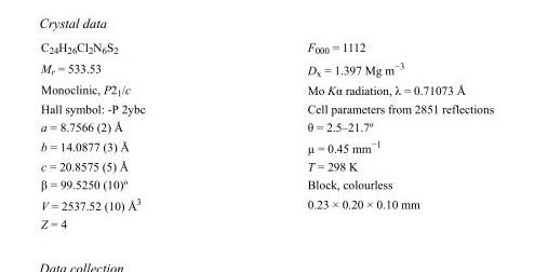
<table><tbody><tr><td>C<sub>24</sub>H<sub>26</sub>Cl<sub>2</sub>N<sub>6</sub>S<sub>2</sub></td><td>F000 = 1112</td></tr><tr><td>M<sub>r</sub> = 533.53</td><td>D<sub>x</sub> = 1.397 Mg m<sup>−3</sup></td></tr><tr><td>Monoclinic, P2<sub>1</sub>/c</td><td>Mo Kα radiation, λ = 0.71073 Å</td></tr><tr><td>Hall symbol: -P 2ybc</td><td>Cell parameters from 2851 reflections</td></tr><tr><td>a = 8.7566 (2) Å</td><td>θ = 2.5–21.7º</td></tr><tr><td>b = 14.0877 (3) Å</td><td>µ = 0.45 mm<sup>−1</sup></td></tr><tr><td>c = 20.8575 (5) Å</td><td>T = 298 K</td></tr><tr><td>β = 99.5250 (10)º</td><td>Block, colourless</td></tr><tr><td>V = 2537.52 (10) Å<sup>3</sup></td><td>0.23 × 0.20 × 0.10 mm</td></tr><tr><td>Z = 4</td><td></td></tr></tbody></table>